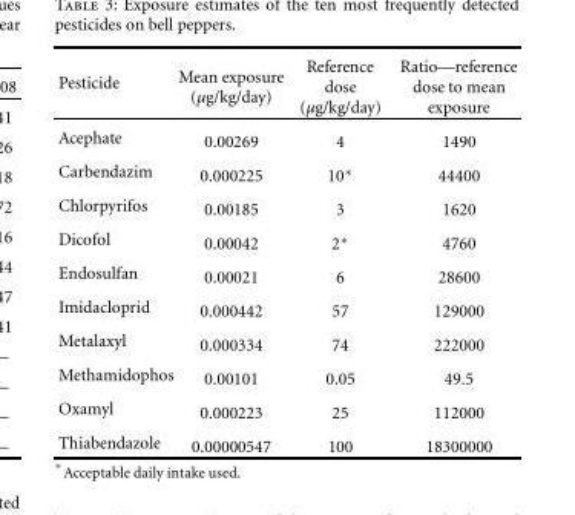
<table><thead><tr><td>Pesticide</td><td>Mean exposure (µg/kg/day)</td><td>Reference dose (µg/kg/day)</td><td>Ratio—reference dose to mean exposure</td></tr></thead><tbody><tr><td>Acephate</td><td>0.00269</td><td>4</td><td>1490</td></tr><tr><td>Carbendazim</td><td>0.000225</td><td>10∗</td><td>44400</td></tr><tr><td>Chlorpyrifos</td><td>0.00185</td><td>3</td><td>1620</td></tr><tr><td>Dicofol</td><td>0.00042</td><td>2∗</td><td>4760</td></tr><tr><td>Endosulfan</td><td>0.00021</td><td>6</td><td>28600</td></tr><tr><td>Imidacloprid</td><td>0.000442</td><td>57</td><td>129000</td></tr><tr><td>Metalaxyl</td><td>0.000334</td><td>74</td><td>222000</td></tr><tr><td>Methamidophos</td><td>0.00101</td><td>0.05</td><td>49.5</td></tr><tr><td>Oxamyl</td><td>0.000223</td><td>25</td><td>112000</td></tr><tr><td>Thiabendazole</td><td>0.00000547</td><td>100</td><td>18300000</td></tr></tbody></table>